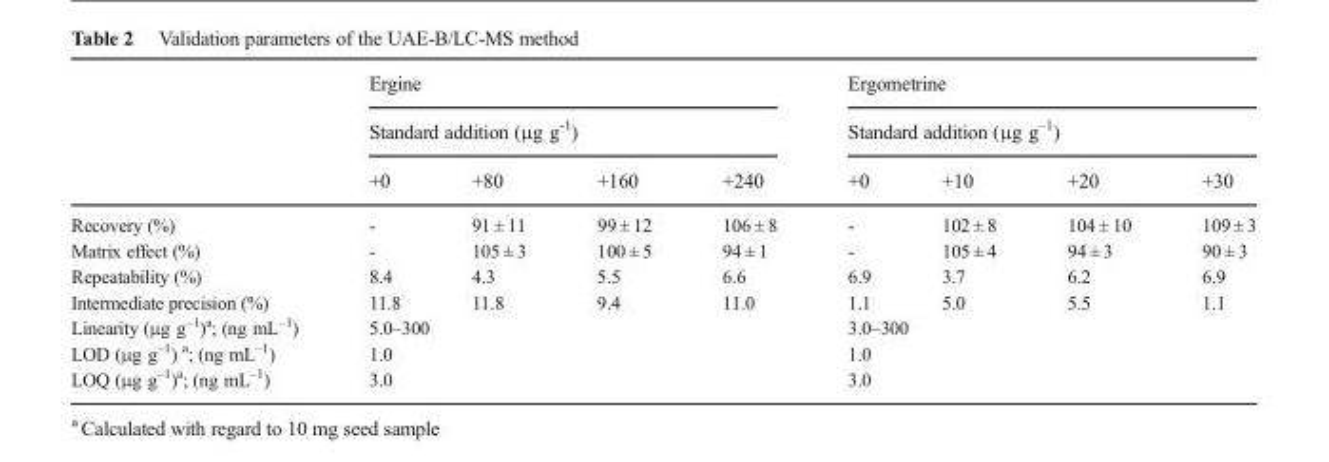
<table><thead><tr><td rowspan="3"></td><td rowspan="2" colspan="4">Ergine Standard addition (μg g-1)</td><td rowspan="2" colspan="4">Ergometrine Standard addition (μg g–1)</td></tr><tr></tr><tr><td>+0</td><td>+80</td><td>+160</td><td>+240</td><td>+0</td><td>+10</td><td>+20</td><td>+30</td></tr></thead><tbody><tr><td>Recovery (%)</td><td>-</td><td>91 ± 11</td><td>99 ± 12</td><td>106 ± 8</td><td>-</td><td>102 ± 8</td><td>104 ± 10</td><td>109 ± 3</td></tr><tr><td>Matrix effect (%)</td><td>-</td><td>105 ± 3</td><td>100 ± 5</td><td>94 ± 1</td><td>-</td><td>105 ± 4</td><td>94 ± 3</td><td>90 ± 3</td></tr><tr><td>Repeatability (%)</td><td>8.4</td><td>4.3</td><td>5.5</td><td>6.6</td><td>6.9</td><td>3.7</td><td>6.2</td><td>6.9</td></tr><tr><td>Intermediate precision (%)</td><td>11.8</td><td>11.8</td><td>9.4</td><td>11.0</td><td>1.1</td><td>5.0</td><td>5.5</td><td>1.1</td></tr><tr><td>Linearity (μg g<sup>–1</sup>)<sup>a</sup>; (ng mL<sup>–1</sup>)</td><td colspan="4">5.0–300</td><td colspan="4">3.0–300</td></tr><tr><td>LOD (μg g<sup>–1</sup>) <sup>a</sup>; (ng mL<sup>–1</sup>)</td><td colspan="4">1.0</td><td colspan="4">1.0</td></tr><tr><td>LOQ (μg g<sup>–1</sup>)<sup>a</sup>; (ng mL<sup>–1</sup>)</td><td colspan="4">3.0</td><td colspan="4">3.0</td></tr></tbody></table>